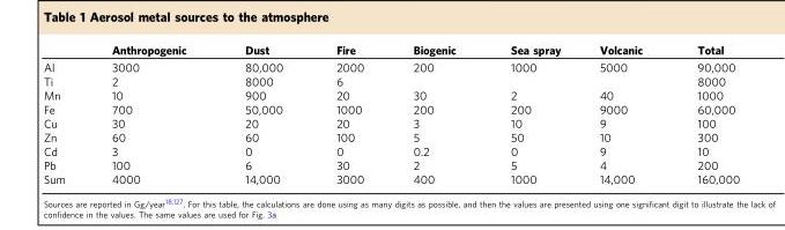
<table><thead><tr><td></td><td>Anthropogenic</td><td>Dust</td><td>Fire</td><td>Biogenic</td><td>Sea spray</td><td>Volcanic</td><td>Total</td></tr></thead><tbody><tr><td>Al</td><td>3000</td><td>80,000</td><td>2000</td><td>200</td><td>1000</td><td>5000</td><td>90,000</td></tr><tr><td>Ti</td><td>2</td><td>8000</td><td>6</td><td></td><td></td><td></td><td>8000</td></tr><tr><td>Mn</td><td>10</td><td>900</td><td>20</td><td>30</td><td>2</td><td>40</td><td>1000</td></tr><tr><td>Fe</td><td>700</td><td>50,000</td><td>1000</td><td>200</td><td>200</td><td>9000</td><td>60,000</td></tr><tr><td>Cu</td><td>30</td><td>20</td><td>20</td><td>3</td><td>10</td><td>9</td><td>100</td></tr><tr><td>Zn</td><td>60</td><td>60</td><td>100</td><td>5</td><td>50</td><td>10</td><td>300</td></tr><tr><td>Cd</td><td>3</td><td>0</td><td>0</td><td>0.2</td><td>0</td><td>9</td><td>10</td></tr><tr><td>Pb</td><td>100</td><td>6</td><td>30</td><td>2</td><td>5</td><td>4</td><td>200</td></tr><tr><td>Sum</td><td>4000</td><td>14,000</td><td>3000</td><td>400</td><td>1000</td><td>14,000</td><td>160,000</td></tr></tbody></table>